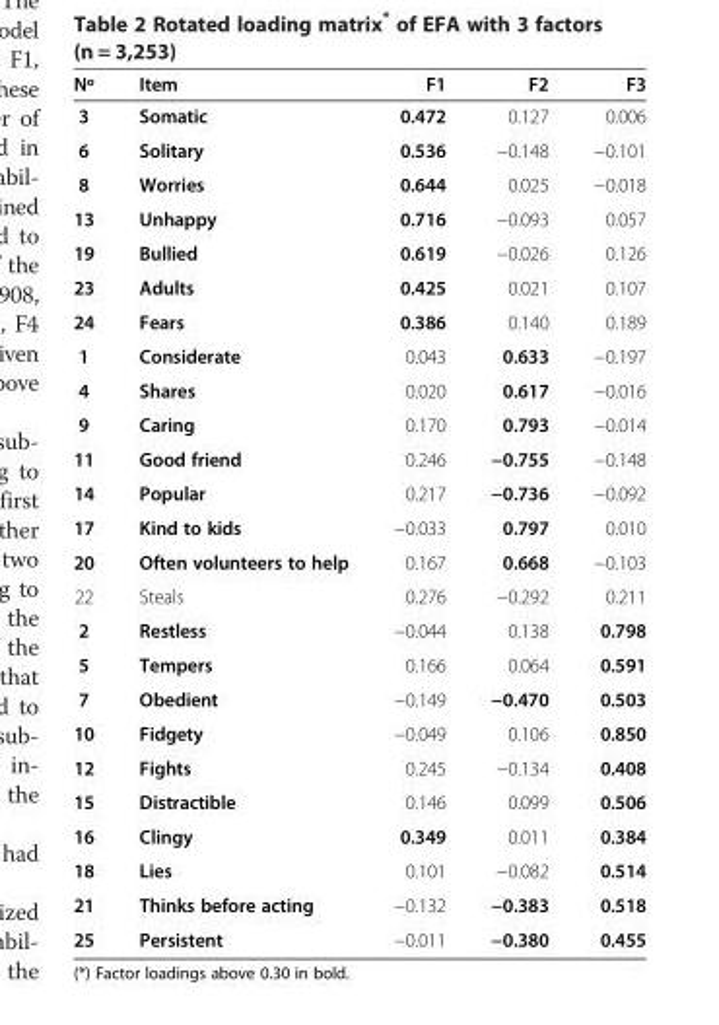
<table><thead><tr><td>Nº</td><td>Item</td><td>F1</td><td>F2</td><td>F3</td></tr></thead><tbody><tr><td>3</td><td>Somatic</td><td>0.472</td><td>0.127</td><td>0.006</td></tr><tr><td>6</td><td>Solitary</td><td>0.536</td><td>−0.148</td><td>−0.101</td></tr><tr><td>8</td><td>Worries</td><td>0.644</td><td>0.025</td><td>−0.018</td></tr><tr><td>13</td><td>Unhappy</td><td>0.716</td><td>−0.093</td><td>0.057</td></tr><tr><td>19</td><td>Bullied</td><td>0.619</td><td>−0.026</td><td>0.126</td></tr><tr><td>23</td><td>Adults</td><td>0.425</td><td>0.021</td><td>0.107</td></tr><tr><td>24</td><td>Fears</td><td>0.386</td><td>0.140</td><td>0.189</td></tr><tr><td>1</td><td>Considerate</td><td>0.043</td><td>0.633</td><td>−0.197</td></tr><tr><td>4</td><td>Shares</td><td>0.020</td><td>0.617</td><td>−0.016</td></tr><tr><td>9</td><td>Caring</td><td>0.170</td><td>0.793</td><td>−0.014</td></tr><tr><td>11</td><td>Good friend</td><td>0.246</td><td>−0.755</td><td>−0.148</td></tr><tr><td>14</td><td>Popular</td><td>0.217</td><td>−0.736</td><td>−0.092</td></tr><tr><td>17</td><td>Kind to kids</td><td>−0.033</td><td>0.797</td><td>0.010</td></tr><tr><td>20</td><td>Often volunteers to help</td><td>0.167</td><td>0.668</td><td>−0.103</td></tr><tr><td>22</td><td>Steals</td><td>0.276</td><td>−0.292</td><td>0.211</td></tr><tr><td>2</td><td>Restless</td><td>−0.044</td><td>0.138</td><td>0.798</td></tr><tr><td>5</td><td>Tempers</td><td>0.166</td><td>0.064</td><td>0.591</td></tr><tr><td>7</td><td>Obedient</td><td>−0.149</td><td>−0.470</td><td>0.503</td></tr><tr><td>10</td><td>Fidgety</td><td>−0.049</td><td>0.106</td><td>0.850</td></tr><tr><td>12</td><td>Fights</td><td>0.245</td><td>−0.134</td><td>0.408</td></tr><tr><td>15</td><td>Distractible</td><td>0.146</td><td>0.099</td><td>0.506</td></tr><tr><td>16</td><td>Clingy</td><td>0.349</td><td>0.011</td><td>0.384</td></tr><tr><td>18</td><td>Lies</td><td>0.101</td><td>−0.082</td><td>0.514</td></tr><tr><td>21</td><td>Thinks before acting</td><td>−0.132</td><td>−0.383</td><td>0.518</td></tr><tr><td>25</td><td>Persistent</td><td>−0.011</td><td>−0.380</td><td>0.455</td></tr></tbody></table>